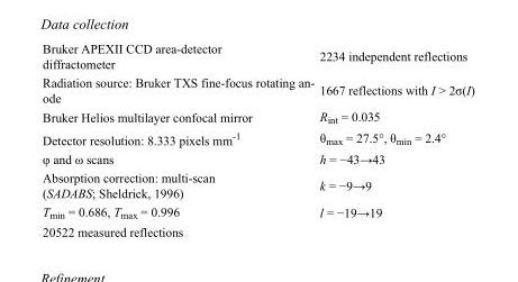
<table><tbody><tr><td>Bruker APEXII CCD area-detector diffractometer</td><td>2234 independent reflections</td></tr><tr><td>Radiation source: Bruker TXS fine-focus rotating an- ode</td><td>1667 reflections with I &gt; 2σ(I)</td></tr><tr><td>Bruker Helios multilayer confocal mirror</td><td>R<sub>int</sub> = 0.035</td></tr><tr><td>Detector resolution: 8.333 pixels mm<sup>-1</sup></td><td>θ<sub>max</sub> = 27.5°, θ<sub>min</sub> = 2.4°</td></tr><tr><td>φ and ω scans</td><td>h = −43→43</td></tr><tr><td>Absorption correction: multi-scan (SADABS; Sheldrick, 1996)</td><td>k = −9→9</td></tr><tr><td>T<sub>min</sub> = 0.686, T<sub>max</sub> = 0.996</td><td>l = −19→19</td></tr><tr><td>20522 measured reflections</td><td></td></tr></tbody></table>